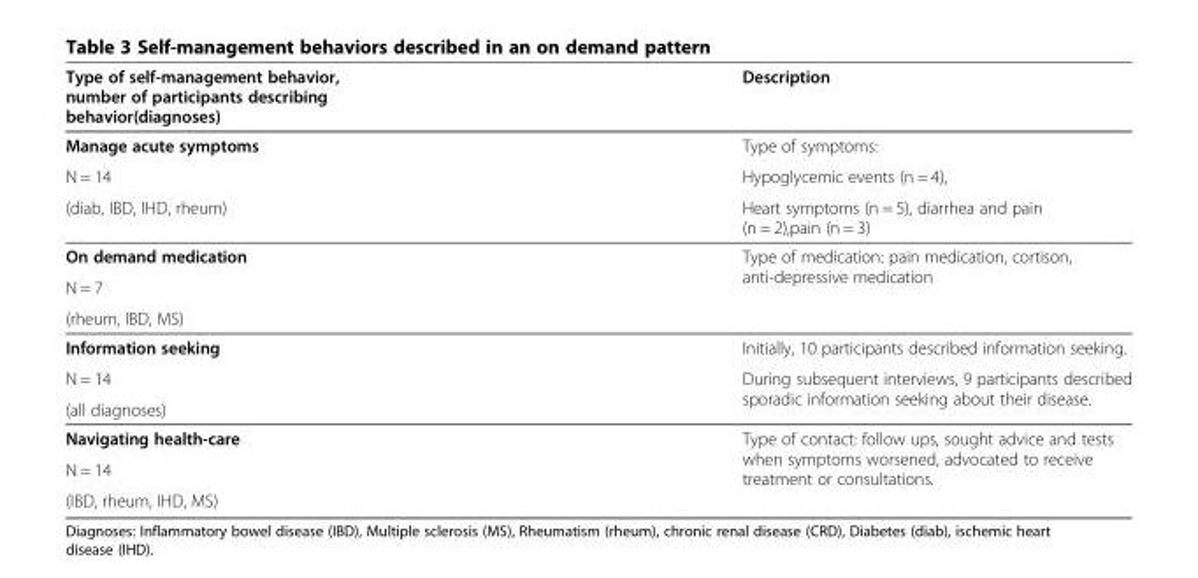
<table><thead><tr><td>Type of self-management behavior, number of participants describing behavior(diagnoses)</td><td>Description</td></tr></thead><tbody><tr><td>Manage acute symptoms</td><td>Type of symptoms:</td></tr><tr><td>N = 14</td><td>Hypoglycemic events (n = 4),</td></tr><tr><td>(diab, IBD, IHD, rheum)</td><td>Heart symptoms (n = 5), diarrhea and pain (n = 2),pain (n = 3)</td></tr><tr><td>On demand medication</td><td rowspan="2">Type of medication: pain medication, cortison, anti-depressive medication</td></tr><tr><td>N = 7</td></tr><tr><td colspan="2">(rheum, IBD, MS)</td></tr><tr><td>Information seeking</td><td>Initially, 10 participants described information seeking.</td></tr><tr><td>N = 14</td><td rowspan="2">During subsequent interviews, 9 participants described sporadic information seeking about their disease.</td></tr><tr><td>(all diagnoses)</td></tr><tr><td>Navigating health-care</td><td rowspan="2">Type of contact: follow ups, sought advice and tests when symptoms worsened, advocated to receive treatment or consultations.</td></tr><tr><td>N = 14</td></tr><tr><td>(IBD, rheum, IHD, MS)</td><td></td></tr></tbody></table>